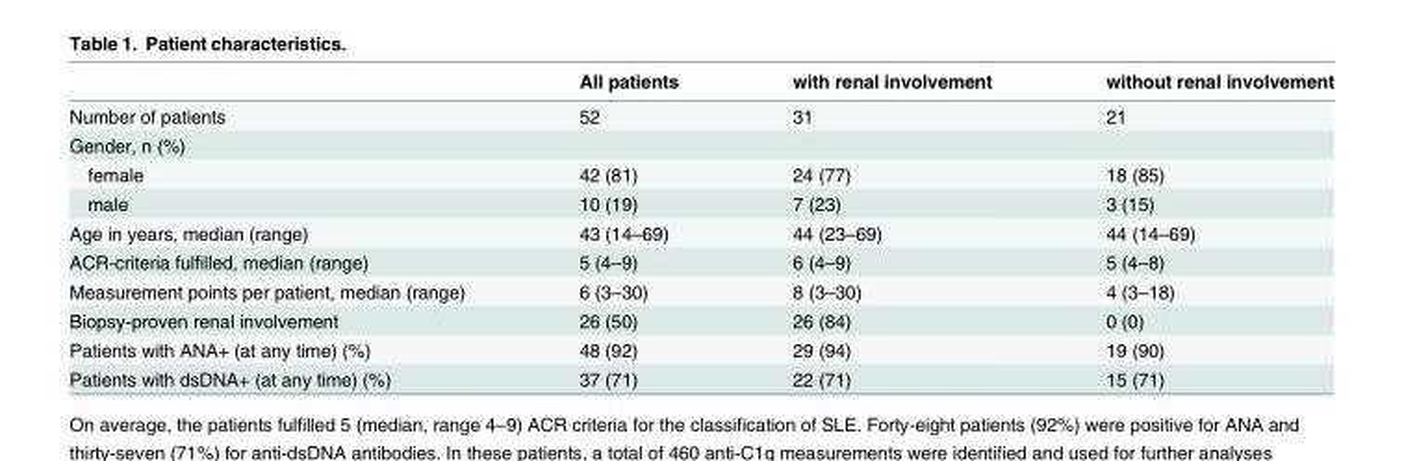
<table><thead><tr><td></td><td>All patients</td><td>with renal involvement</td><td>without renal involvement</td></tr></thead><tbody><tr><td>Number of patients</td><td>52</td><td>31</td><td>21</td></tr><tr><td colspan="4">Gender, n (%)</td></tr><tr><td>female</td><td>42 (81)</td><td>24 (77)</td><td>18 (85)</td></tr><tr><td>male</td><td>10 (19)</td><td>7 (23)</td><td>3 (15)</td></tr><tr><td>Age in years, median (range)</td><td>43 (14–69)</td><td>44 (23–69)</td><td>44 (14–69)</td></tr><tr><td>ACR-criteria fulfilled, median (range)</td><td>5 (4–9)</td><td>6 (4–9)</td><td>5 (4–8)</td></tr><tr><td>Measurement points per patient, median (range)</td><td>6 (3–30)</td><td>8 (3–30)</td><td>4 (3–18)</td></tr><tr><td>Biopsy-proven renal involvement</td><td>26 (50)</td><td>26 (84)</td><td>0 (0)</td></tr><tr><td>Patients with ANA+ (at any time) (%)</td><td>48 (92)</td><td>29 (94)</td><td>19 (90)</td></tr><tr><td>Patients with dsDNA+ (at any time) (%)</td><td>37 (71)</td><td>22 (71)</td><td>15 (71)</td></tr></tbody></table>